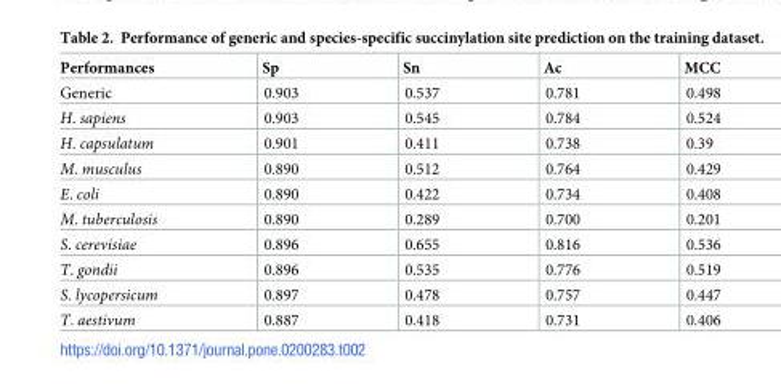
<table><thead><tr><td>Performances</td><td>Sp</td><td>Sn</td><td>Ac</td><td>MCC</td></tr></thead><tbody><tr><td>Generic</td><td>0.903</td><td>0.537</td><td>0.781</td><td>0.498</td></tr><tr><td>H. sapiens</td><td>0.903</td><td>0.545</td><td>0.784</td><td>0.524</td></tr><tr><td>H. capsulatum</td><td>0.901</td><td>0.411</td><td>0.738</td><td>0.39</td></tr><tr><td>M. musculus</td><td>0.890</td><td>0.512</td><td>0.764</td><td>0.429</td></tr><tr><td>E. coli</td><td>0.890</td><td>0.422</td><td>0.734</td><td>0.408</td></tr><tr><td>M. tuberculosis</td><td>0.890</td><td>0.289</td><td>0.700</td><td>0.201</td></tr><tr><td>S. cerevisiae</td><td>0.896</td><td>0.655</td><td>0.816</td><td>0.536</td></tr><tr><td>T. gondii</td><td>0.896</td><td>0.535</td><td>0.776</td><td>0.519</td></tr><tr><td>S. lycopersicum</td><td>0.897</td><td>0.478</td><td>0.757</td><td>0.447</td></tr><tr><td>T. aestivum</td><td>0.887</td><td>0.418</td><td>0.731</td><td>0.406</td></tr></tbody></table>